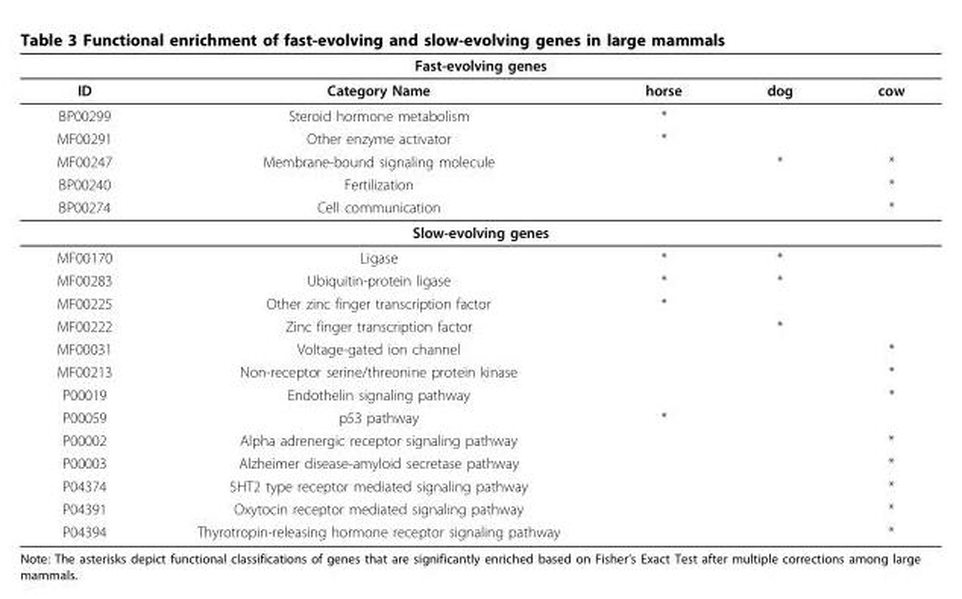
<table><thead><tr><td colspan="5">Fast-evolving genes</td></tr><tr><td>ID</td><td>Category Name</td><td>horse</td><td>dog</td><td>cow</td></tr></thead><tbody><tr><td>BP00299</td><td>Steroid hormone metabolism</td><td>*</td><td></td><td></td></tr><tr><td>MF00291</td><td>Other enzyme activator</td><td>*</td><td></td><td></td></tr><tr><td>MF00247</td><td>Membrane-bound signaling molecule</td><td></td><td>*</td><td>*</td></tr><tr><td>BP00240</td><td>Fertilization</td><td></td><td></td><td>*</td></tr><tr><td>BP00274</td><td>Cell communication</td><td></td><td></td><td>*</td></tr><tr><td colspan="5">Slow-evolving genes</td></tr><tr><td>MF00170</td><td>Ligase</td><td>*</td><td>*</td><td></td></tr><tr><td>MF00283</td><td>Ubiquitin-protein ligase</td><td>*</td><td>*</td><td></td></tr><tr><td>MF00225</td><td>Other zinc finger transcription factor</td><td>*</td><td></td><td></td></tr><tr><td>MF00222</td><td>Zinc finger transcription factor</td><td></td><td>*</td><td></td></tr><tr><td>MF00031</td><td>Voltage-gated ion channel</td><td></td><td></td><td>*</td></tr><tr><td>MF00213</td><td>Non-receptor serine/threonine protein kinase</td><td></td><td></td><td>*</td></tr><tr><td>P00019</td><td>Endothelin signaling pathway</td><td></td><td></td><td>*</td></tr><tr><td>P00059</td><td>p53 pathway</td><td>*</td><td></td><td></td></tr><tr><td>P00002</td><td>Alpha adrenergic receptor signaling pathway</td><td></td><td></td><td>*</td></tr><tr><td>P00003</td><td>Alzheimer disease-amyloid secretase pathway</td><td></td><td></td><td>*</td></tr><tr><td>P04374</td><td>5HT2 type receptor mediated signaling pathway</td><td></td><td></td><td>*</td></tr><tr><td>P04391</td><td>Oxytocin receptor mediated signaling pathway</td><td></td><td></td><td>*</td></tr><tr><td>P04394</td><td>Thyrotropin-releasing hormone receptor signaling pathway</td><td></td><td></td><td>*</td></tr></tbody></table>